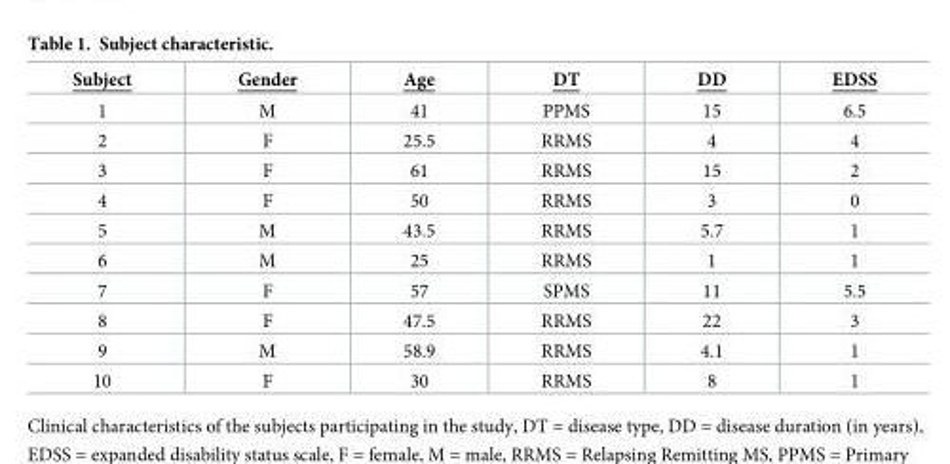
<table><thead><tr><td>Subject</td><td>Gender</td><td>Age</td><td>DT</td><td>DD</td><td>EDSS</td></tr></thead><tbody><tr><td>1</td><td>M</td><td>41</td><td>PPMS</td><td>15</td><td>6.5</td></tr><tr><td>2</td><td>F</td><td>25.5</td><td>RRMS</td><td>4</td><td>4</td></tr><tr><td>3</td><td>F</td><td>61</td><td>RRMS</td><td>15</td><td>2</td></tr><tr><td>4</td><td>F</td><td>50</td><td>RRMS</td><td>3</td><td>0</td></tr><tr><td>5</td><td>M</td><td>43.5</td><td>RRMS</td><td>5.7</td><td>1</td></tr><tr><td>6</td><td>M</td><td>25</td><td>RRMS</td><td>1</td><td>1</td></tr><tr><td>7</td><td>F</td><td>57</td><td>SPMS</td><td>11</td><td>5.5</td></tr><tr><td>8</td><td>F</td><td>47.5</td><td>RRMS</td><td>22</td><td>3</td></tr><tr><td>9</td><td>M</td><td>58.9</td><td>RRMS</td><td>4.1</td><td>1</td></tr><tr><td>10</td><td>F</td><td>30</td><td>RRMS</td><td>8</td><td>1</td></tr></tbody></table>